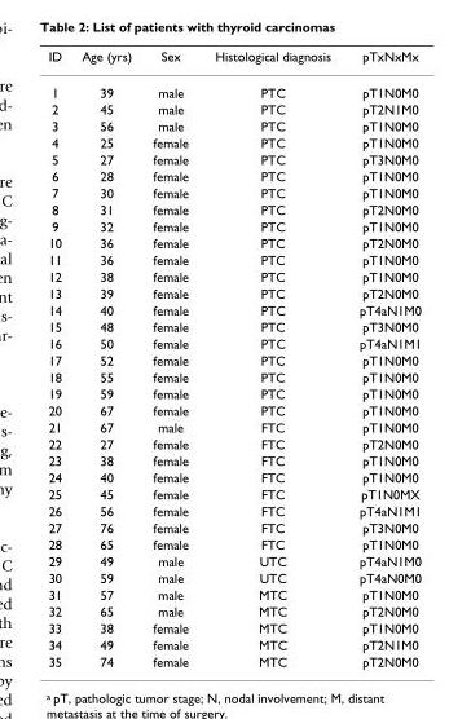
<table><thead><tr><td>ID</td><td>Age (yrs)</td><td>Sex</td><td>Histological diagnosis</td><td>pTxNxMx</td></tr></thead><tbody><tr><td>1</td><td>39</td><td>male</td><td>PTC</td><td>pT1N0M0</td></tr><tr><td>2</td><td>45</td><td>male</td><td>PTC</td><td>pT2N1M0</td></tr><tr><td>3</td><td>56</td><td>male</td><td>PTC</td><td>pT1N0M0</td></tr><tr><td>4</td><td>25</td><td>female</td><td>PTC</td><td>pT1N0M0</td></tr><tr><td>5</td><td>27</td><td>female</td><td>PTC</td><td>pT3N0M0</td></tr><tr><td>6</td><td>28</td><td>female</td><td>PTC</td><td>pT1N0M0</td></tr><tr><td>7</td><td>30</td><td>female</td><td>PTC</td><td>pT1N0M0</td></tr><tr><td>8</td><td>31</td><td>female</td><td>PTC</td><td>pT2N0M0</td></tr><tr><td>9</td><td>32</td><td>female</td><td>PTC</td><td>pT1N0M0</td></tr><tr><td>10</td><td>36</td><td>female</td><td>PTC</td><td>pT2N0M0</td></tr><tr><td>11</td><td>36</td><td>female</td><td>PTC</td><td>pT1N0M0</td></tr><tr><td>12</td><td>38</td><td>female</td><td>PTC</td><td>pT1N0M0</td></tr><tr><td>13</td><td>39</td><td>female</td><td>PTC</td><td>pT2N0M0</td></tr><tr><td>14</td><td>40</td><td>female</td><td>PTC</td><td>pT4aN1M0</td></tr><tr><td>15</td><td>48</td><td>female</td><td>PTC</td><td>pT3N0M0</td></tr><tr><td>16</td><td>50</td><td>female</td><td>PTC</td><td>pT4aN1M1</td></tr><tr><td>17</td><td>52</td><td>female</td><td>PTC</td><td>pT1N0M0</td></tr><tr><td>18</td><td>55</td><td>female</td><td>PTC</td><td>pT1N0M0</td></tr><tr><td>19</td><td>59</td><td>female</td><td>PTC</td><td>pT1N0M0</td></tr><tr><td>20</td><td>67</td><td>female</td><td>PTC</td><td>pT1N0M0</td></tr><tr><td>21</td><td>67</td><td>male</td><td>FTC</td><td>pT1N0M0</td></tr><tr><td>22</td><td>27</td><td>female</td><td>FTC</td><td>pT2N0M0</td></tr><tr><td>23</td><td>38</td><td>female</td><td>FTC</td><td>pT1N0M0</td></tr><tr><td>24</td><td>40</td><td>female</td><td>FTC</td><td>pT1N0M0</td></tr><tr><td>25</td><td>45</td><td>female</td><td>FTC</td><td>pT1N0MX</td></tr><tr><td>26</td><td>56</td><td>female</td><td>FTC</td><td>pT4aN1M1</td></tr><tr><td>27</td><td>76</td><td>female</td><td>FTC</td><td>pT3N0M0</td></tr><tr><td>28</td><td>65</td><td>female</td><td>FTC</td><td>pT1N0M0</td></tr><tr><td>29</td><td>49</td><td>male</td><td>UTC</td><td>pT4aN1M0</td></tr><tr><td>30</td><td>59</td><td>male</td><td>UTC</td><td>pT4aN0M0</td></tr><tr><td>31</td><td>57</td><td>male</td><td>MTC</td><td>pT1N0M0</td></tr><tr><td>32</td><td>65</td><td>male</td><td>MTC</td><td>pT2N0M0</td></tr><tr><td>33</td><td>38</td><td>female</td><td>MTC</td><td>pT1N0M0</td></tr><tr><td>34</td><td>49</td><td>female</td><td>MTC</td><td>pT2N1M0</td></tr><tr><td>35</td><td>74</td><td>female</td><td>MTC</td><td>pT2N0M0</td></tr></tbody></table>